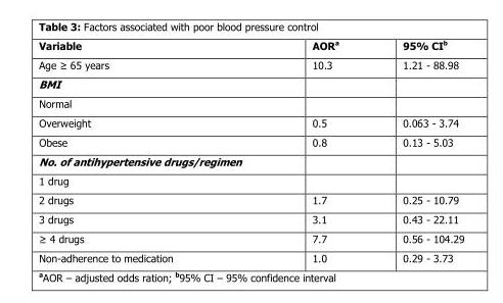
<table><thead><tr><td>Variable</td><td>AOR<sup>a</sup></td><td>95% CI<sup>b</sup></td></tr></thead><tbody><tr><td>Age ≥ 65 years</td><td>10.3</td><td>1.21 - 88.98</td></tr><tr><td colspan="3">BMI</td></tr><tr><td colspan="3">Normal</td></tr><tr><td>Overweight</td><td>0.5</td><td>0.063 - 3.74</td></tr><tr><td>Obese</td><td>0.8</td><td>0.13 - 5.03</td></tr><tr><td colspan="3">No. of antihypertensive drugs/regimen</td></tr><tr><td colspan="3">1 drug</td></tr><tr><td>2 drugs</td><td>1.7</td><td>0.25 - 10.79</td></tr><tr><td>3 drugs</td><td>3.1</td><td>0.43 - 22.11</td></tr><tr><td>≥ 4 drugs</td><td>7.7</td><td>0.56 - 104.29</td></tr><tr><td>Non-adherence to medication</td><td>1.0</td><td>0.29 - 3.73</td></tr></tbody></table>